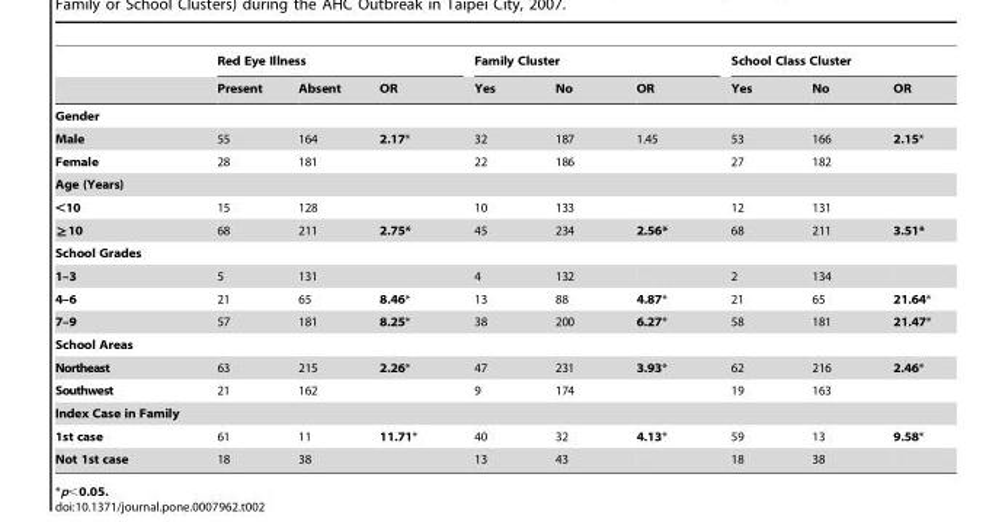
<table><thead><tr><td rowspan="2"></td><td colspan="3">Red Eye Illness</td><td colspan="3">Family Cluster</td><td colspan="3">School Class Cluster</td></tr><tr><td>Present</td><td>Absent</td><td>OR</td><td>Yes</td><td>No</td><td>OR</td><td>Yes</td><td>No</td><td>OR</td></tr></thead><tbody><tr><td colspan="10">Gender</td></tr><tr><td>Male</td><td>55</td><td>164</td><td>2.17*</td><td>32</td><td>187</td><td>1.45</td><td>53</td><td>166</td><td>2.15*</td></tr><tr><td>Female</td><td>28</td><td>181</td><td></td><td>22</td><td>186</td><td></td><td>27</td><td>182</td><td></td></tr><tr><td colspan="10">Age (Years)</td></tr><tr><td>&lt;10</td><td>15</td><td>128</td><td></td><td>10</td><td>133</td><td></td><td>12</td><td>131</td><td></td></tr><tr><td>≧10</td><td>68</td><td>211</td><td>2.75*</td><td>45</td><td>234</td><td>2.56*</td><td>68</td><td>211</td><td>3.51*</td></tr><tr><td colspan="10">School Grades</td></tr><tr><td>1–3</td><td>5</td><td>131</td><td></td><td>4</td><td>132</td><td></td><td>2</td><td>134</td><td></td></tr><tr><td>4–6</td><td>21</td><td>65</td><td>8.46*</td><td>13</td><td>88</td><td>4.87*</td><td>21</td><td>65</td><td>21.64*</td></tr><tr><td>7–9</td><td>57</td><td>181</td><td>8.25*</td><td>38</td><td>200</td><td>6.27*</td><td>58</td><td>181</td><td>21.47*</td></tr><tr><td colspan="10">School Areas</td></tr><tr><td>Northeast</td><td>63</td><td>215</td><td>2.26*</td><td>47</td><td>231</td><td>3.93*</td><td>62</td><td>216</td><td>2.46*</td></tr><tr><td>Southwest</td><td>21</td><td>162</td><td></td><td>9</td><td>174</td><td></td><td>19</td><td>163</td><td></td></tr><tr><td colspan="10">Index Case in Family</td></tr><tr><td>1st case</td><td>61</td><td>11</td><td>11.71*</td><td>40</td><td>32</td><td>4.13*</td><td>59</td><td>13</td><td>9.58*</td></tr><tr><td>Not 1st case</td><td>18</td><td>38</td><td></td><td>13</td><td>43</td><td></td><td>18</td><td>38</td><td></td></tr></tbody></table>